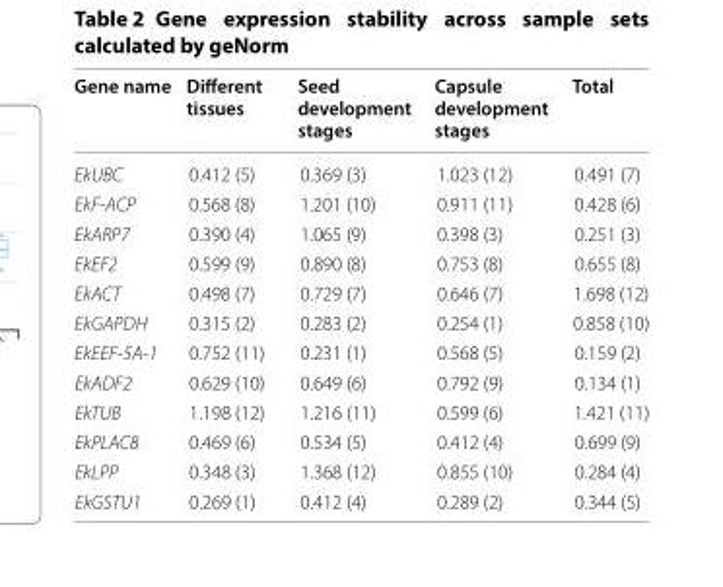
<table><thead><tr><td>Gene name</td><td>Different tissues</td><td>Seed development stages</td><td>Capsule development stages</td><td>Total</td></tr></thead><tbody><tr><td>EkUBC</td><td>0.412 (5)</td><td>0.369 (3)</td><td>1.023 (12)</td><td>0.491 (7)</td></tr><tr><td>EkF‑ACP</td><td>0.568 (8)</td><td>1.201 (10)</td><td>0.911 (11)</td><td>0.428 (6)</td></tr><tr><td>EkARP7</td><td>0.390 (4)</td><td>1.065 (9)</td><td>0.398 (3)</td><td>0.251 (3)</td></tr><tr><td>EkEF2</td><td>0.599 (9)</td><td>0.890 (8)</td><td>0.753 (8)</td><td>0.655 (8)</td></tr><tr><td>EkACT</td><td>0.498 (7)</td><td>0.729 (7)</td><td>0.646 (7)</td><td>1.698 (12)</td></tr><tr><td>EkGAPDH</td><td>0.315 (2)</td><td>0.283 (2)</td><td>0.254 (1)</td><td>0.858 (10)</td></tr><tr><td>EkEEF‑5A‑1</td><td>0.752 (11)</td><td>0.231 (1)</td><td>0.568 (5)</td><td>0.159 (2)</td></tr><tr><td>EkADF2</td><td>0.629 (10)</td><td>0.649 (6)</td><td>0.792 (9)</td><td>0.134 (1)</td></tr><tr><td>EkTUB</td><td>1.198 (12)</td><td>1.216 (11)</td><td>0.599 (6)</td><td>1.421 (11)</td></tr><tr><td>EkPLAC8</td><td>0.469 (6)</td><td>0.534 (5)</td><td>0.412 (4)</td><td>0.699 (9)</td></tr><tr><td>EkLPP</td><td>0.348 (3)</td><td>1.368 (12)</td><td>0.855 (10)</td><td>0.284 (4)</td></tr><tr><td>EkGSTU1</td><td>0.269 (1)</td><td>0.412 (4)</td><td>0.289 (2)</td><td>0.344 (5)</td></tr></tbody></table>